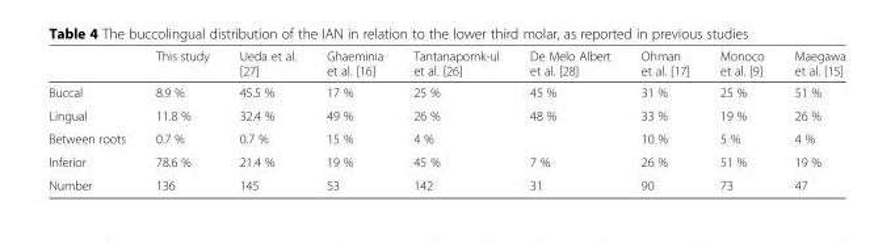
<table><thead><tr><td></td><td>This study</td><td>Ueda et al. [27]</td><td>Ghaeminia et al. [16]</td><td>Tantanapornk-ul et al. [26]</td><td>De Melo Albert et al. [28]</td><td>Ohman et al. [17]</td><td>Monoco et al. [9]</td><td>Maegawa et al. [15]</td></tr></thead><tbody><tr><td>Buccal</td><td>8.9 %</td><td>45.5 %</td><td>17 %</td><td>25 %</td><td>45 %</td><td>31 %</td><td>25 %</td><td>51 %</td></tr><tr><td>Lingual</td><td>11.8 %</td><td>32.4 %</td><td>49 %</td><td>26 %</td><td>48 %</td><td>33 %</td><td>19 %</td><td>26 %</td></tr><tr><td>Between roots</td><td>0.7 %</td><td>0.7 %</td><td>15 %</td><td>4 %</td><td></td><td>10 %</td><td>5 %</td><td>4 %</td></tr><tr><td>Inferior</td><td>78.6 %</td><td>21.4 %</td><td>19 %</td><td>45 %</td><td>7 %</td><td>26 %</td><td>51 %</td><td>19 %</td></tr><tr><td>Number</td><td>136</td><td>145</td><td>53</td><td>142</td><td>31</td><td>90</td><td>73</td><td>47</td></tr></tbody></table>